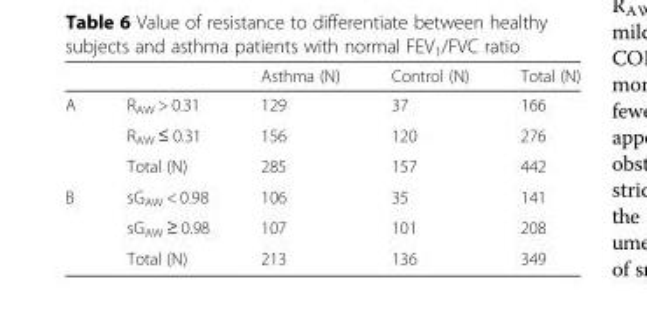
<table><thead><tr><td></td><td></td><td>Asthma (N)</td><td>Control (N)</td><td>Total (N)</td></tr></thead><tbody><tr><td rowspan="3">A</td><td>R<sub>AW</sub> &gt; 0.31</td><td>129</td><td>37</td><td>166</td></tr><tr><td>R<sub>AW</sub> ≤ 0.31</td><td>156</td><td>120</td><td>276</td></tr><tr><td>Total (N)</td><td>285</td><td>157</td><td>442</td></tr><tr><td rowspan="3">B</td><td>sG<sub>AW</sub> &lt; 0.98</td><td>106</td><td>35</td><td>141</td></tr><tr><td>sG<sub>AW</sub> ≥ 0.98</td><td>107</td><td>101</td><td>208</td></tr><tr><td>Total (N)</td><td>213</td><td>136</td><td>349</td></tr></tbody></table>